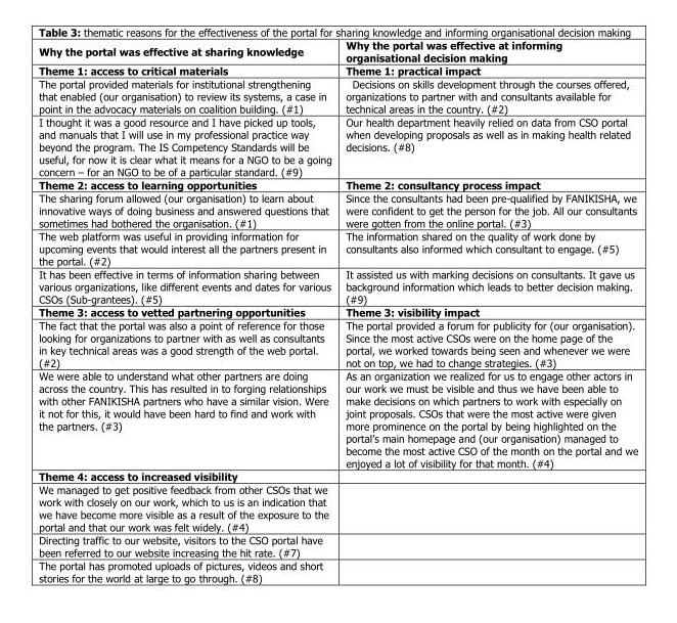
<table><thead><tr><td rowspan="2">Why the portal was effective at sharing knowledge Theme 1: access to critical materials</td><td rowspan="2">Why the portal was effective at informing organisational decision making Theme 1: practical impact</td></tr><tr></tr></thead><tbody><tr><td>The portal provided materials for institutional strengthening that enabled (our organisation) to review its systems, a case in point in the advocacy materials on coalition building. (#1)</td><td>Decisions on skills development through the courses offered, organizations to partner with and consultants available for technical areas in the country. (#2)</td></tr><tr><td>I thought it was a good resource and I have picked up tools, and manuals that I will use in my professional practice way beyond the program. The IS Competency Standards will be useful, for now it is clear what it means for a NGO to be a going concern – for an NGO to be of a particular standard. (#9)</td><td>Our health department heavily relied on data from CSO portal when developing proposals as well as in making health related decisions. (#8)</td></tr><tr><td>Theme 2: access to learning opportunities</td><td>Theme 2: consultancy process impact</td></tr><tr><td>The sharing forum allowed (our organisation) to learn about innovative ways of doing business and answered questions that sometimes had bothered the organisation. (#1)</td><td>Since the consultants had been pre-qualified by FANIKISHA, we were confident to get the person for the job. All our consultants were gotten from the online portal. (#3)</td></tr><tr><td>The web platform was useful in providing information for upcoming events that would interest all the partners present in the portal. (#2)</td><td>The information shared on the quality of work done by consultants also informed which consultant to engage. (#5)</td></tr><tr><td>It has been effective in terms of information sharing between various organizations, like different events and dates for various CSOs (Sub-grantees). (#5)</td><td>It assisted us with marking decisions on consultants. It gave us background information which leads to better decision making. (#9)</td></tr><tr><td>Theme 3: access to vetted partnering opportunities</td><td>Theme 3: visibility impact</td></tr><tr><td>The fact that the portal was also a point of reference for those looking for organizations to partner with as well as consultants in key technical areas was a good strength of the web portal. (#2)</td><td>The portal provided a forum for publicity for (our organisation). Since the most active CSOs were on the home page of the portal, we worked towards being seen and whenever we were not on top, we had to change strategies. (#3)</td></tr><tr><td>We were able to understand what other partners are doing across the country. This has resulted in to forging relationships with other FANIKISHA partners who have a similar vision. Were it not for this, it would have been hard to find and work with the partners. (#3)</td><td>As an organization we realized for us to engage other actors in our work we must be visible and thus we have been able to make decisions on which partners to work with especially on joint proposals. CSOs that were the most active were given more prominence on the portal by being highlighted on the portal’s main homepage and (our organisation) managed to become the most active CSO of the month on the portal and we enjoyed a lot of visibility for that month. (#4)</td></tr><tr><td colspan="2">Theme 4: access to increased visibility</td></tr><tr><td colspan="2">We managed to get positive feedback from other CSOs that we work with closely on our work, which to us is an indication that we have become more visible as a result of the exposure to the portal and that our work was felt widely. (#4)</td></tr><tr><td colspan="2">Directing traffic to our website, visitors to the CSO portal have been referred to our website increasing the hit rate. (#7)</td></tr><tr><td>The portal has promoted uploads of pictures, videos and short stories for the world at large to go through. (#8)</td><td></td></tr></tbody></table>